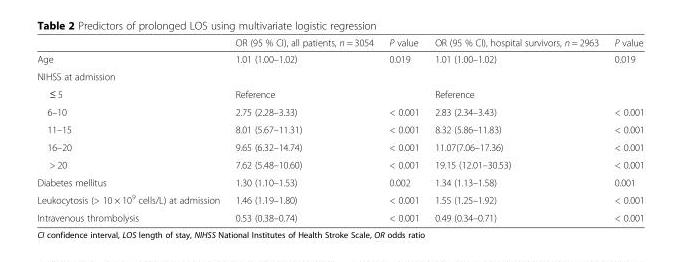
<table><thead><tr><td></td><td>OR (95 % CI), all patients, n = 3054</td><td>P value</td><td>OR (95 % CI), hospital survivors, n = 2963</td><td>P value</td></tr></thead><tbody><tr><td>Age</td><td>1.01 (1.00–1.02)</td><td>0.019</td><td>1.01 (1.00–1.02)</td><td>0.019</td></tr><tr><td colspan="5">NIHSS at admission</td></tr><tr><td>≤ 5</td><td>Reference</td><td></td><td>Reference</td><td></td></tr><tr><td>6–10</td><td>2.75 (2.28–3.33)</td><td>&lt; 0.001</td><td>2.83 (2.34–3.43)</td><td>&lt; 0.001</td></tr><tr><td>11–15</td><td>8.01 (5.67–11.31)</td><td>&lt; 0.001</td><td>8.32 (5.86–11.83)</td><td>&lt; 0.001</td></tr><tr><td>16–20</td><td>9.65 (6.32–14.74)</td><td>&lt; 0.001</td><td>11.07(7.06–17.36)</td><td>&lt; 0.001</td></tr><tr><td>&gt; 20</td><td>7.62 (5.48–10.60)</td><td>&lt; 0.001</td><td>19.15 (12.01–30.53)</td><td>&lt; 0.001</td></tr><tr><td>Diabetes mellitus</td><td>1.30 (1.10–1.53)</td><td>0.002</td><td>1.34 (1.13–1.58)</td><td>0.001</td></tr><tr><td>Leukocytosis (&gt; 10 × 10<sup>9</sup> cells/L) at admission</td><td>1.46 (1.19–1.80)</td><td>&lt; 0.001</td><td>1.55 (1.25–1.92)</td><td>&lt; 0.001</td></tr><tr><td>Intravenous thrombolysis</td><td>0.53 (0.38–0.74)</td><td>&lt; 0.001</td><td>0.49 (0.34–0.71)</td><td>&lt; 0.001</td></tr></tbody></table>